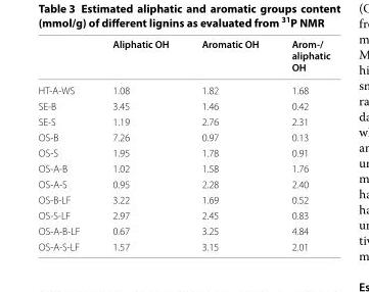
<table><thead><tr><td></td><td>Aliphatic OH</td><td>Aromatic OH</td><td>Arom-/ aliphatic OH</td></tr></thead><tbody><tr><td>HT-A-WS</td><td>1.08</td><td>1.82</td><td>1.68</td></tr><tr><td>SE-B</td><td>3.45</td><td>1.46</td><td>0.42</td></tr><tr><td>SE-S</td><td>1.19</td><td>2.76</td><td>2.31</td></tr><tr><td>OS-B</td><td>7.26</td><td>0.97</td><td>0.13</td></tr><tr><td>OS-S</td><td>1.95</td><td>1.78</td><td>0.91</td></tr><tr><td>OS-A-B</td><td>1.02</td><td>1.58</td><td>1.76</td></tr><tr><td>OS-A-S</td><td>0.95</td><td>2.28</td><td>2.40</td></tr><tr><td>OS-B-LF</td><td>3.22</td><td>1.69</td><td>0.52</td></tr><tr><td>OS-S-LF</td><td>2.97</td><td>2.45</td><td>0.83</td></tr><tr><td>OS-A-B-LF</td><td>0.67</td><td>3.25</td><td>4.84</td></tr><tr><td>OS-A-S-LF</td><td>1.57</td><td>3.15</td><td>2.01</td></tr></tbody></table>